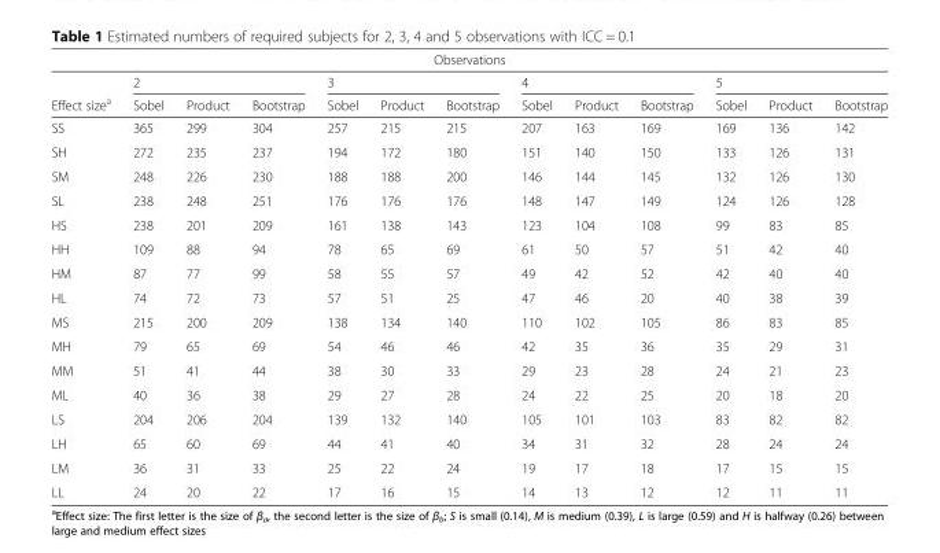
<table><thead><tr><td colspan="13">Observations</td></tr><tr><td rowspan="2">Effect size<sup>a</sup></td><td colspan="3">2</td><td colspan="3">3</td><td colspan="3">4</td><td colspan="3">5</td></tr><tr><td>Sobel</td><td>Product</td><td>Bootstrap</td><td>Sobel</td><td>Product</td><td>Bootstrap</td><td>Sobel</td><td>Product</td><td>Bootstrap</td><td>Sobel</td><td>Product</td><td>Bootstrap</td></tr></thead><tbody><tr><td>SS</td><td>365</td><td>299</td><td>304</td><td>257</td><td>215</td><td>215</td><td>207</td><td>163</td><td>169</td><td>169</td><td>136</td><td>142</td></tr><tr><td>SH</td><td>272</td><td>235</td><td>237</td><td>194</td><td>172</td><td>180</td><td>151</td><td>140</td><td>150</td><td>133</td><td>126</td><td>131</td></tr><tr><td>SM</td><td>248</td><td>226</td><td>230</td><td>188</td><td>188</td><td>200</td><td>146</td><td>144</td><td>145</td><td>132</td><td>126</td><td>130</td></tr><tr><td>SL</td><td>238</td><td>248</td><td>251</td><td>176</td><td>176</td><td>176</td><td>148</td><td>147</td><td>149</td><td>124</td><td>126</td><td>128</td></tr><tr><td>HS</td><td>238</td><td>201</td><td>209</td><td>161</td><td>138</td><td>143</td><td>123</td><td>104</td><td>108</td><td>99</td><td>83</td><td>85</td></tr><tr><td>HH</td><td>109</td><td>88</td><td>94</td><td>78</td><td>65</td><td>69</td><td>61</td><td>50</td><td>57</td><td>51</td><td>42</td><td>40</td></tr><tr><td>HM</td><td>87</td><td>77</td><td>99</td><td>58</td><td>55</td><td>57</td><td>49</td><td>42</td><td>52</td><td>42</td><td>40</td><td>40</td></tr><tr><td>HL</td><td>74</td><td>72</td><td>73</td><td>57</td><td>51</td><td>25</td><td>47</td><td>46</td><td>20</td><td>40</td><td>38</td><td>39</td></tr><tr><td>MS</td><td>215</td><td>200</td><td>209</td><td>138</td><td>134</td><td>140</td><td>110</td><td>102</td><td>105</td><td>86</td><td>83</td><td>85</td></tr><tr><td>MH</td><td>79</td><td>65</td><td>69</td><td>54</td><td>46</td><td>46</td><td>42</td><td>35</td><td>36</td><td>35</td><td>29</td><td>31</td></tr><tr><td>MM</td><td>51</td><td>41</td><td>44</td><td>38</td><td>30</td><td>33</td><td>29</td><td>23</td><td>28</td><td>24</td><td>21</td><td>23</td></tr><tr><td>ML</td><td>40</td><td>36</td><td>38</td><td>29</td><td>27</td><td>28</td><td>24</td><td>22</td><td>25</td><td>20</td><td>18</td><td>20</td></tr><tr><td>LS</td><td>204</td><td>206</td><td>204</td><td>139</td><td>132</td><td>140</td><td>105</td><td>101</td><td>103</td><td>83</td><td>82</td><td>82</td></tr><tr><td>LH</td><td>65</td><td>60</td><td>69</td><td>44</td><td>41</td><td>40</td><td>34</td><td>31</td><td>32</td><td>28</td><td>24</td><td>24</td></tr><tr><td>LM</td><td>36</td><td>31</td><td>33</td><td>25</td><td>22</td><td>24</td><td>19</td><td>17</td><td>18</td><td>17</td><td>15</td><td>15</td></tr><tr><td>LL</td><td>24</td><td>20</td><td>22</td><td>17</td><td>16</td><td>15</td><td>14</td><td>13</td><td>12</td><td>12</td><td>11</td><td>11</td></tr></tbody></table>